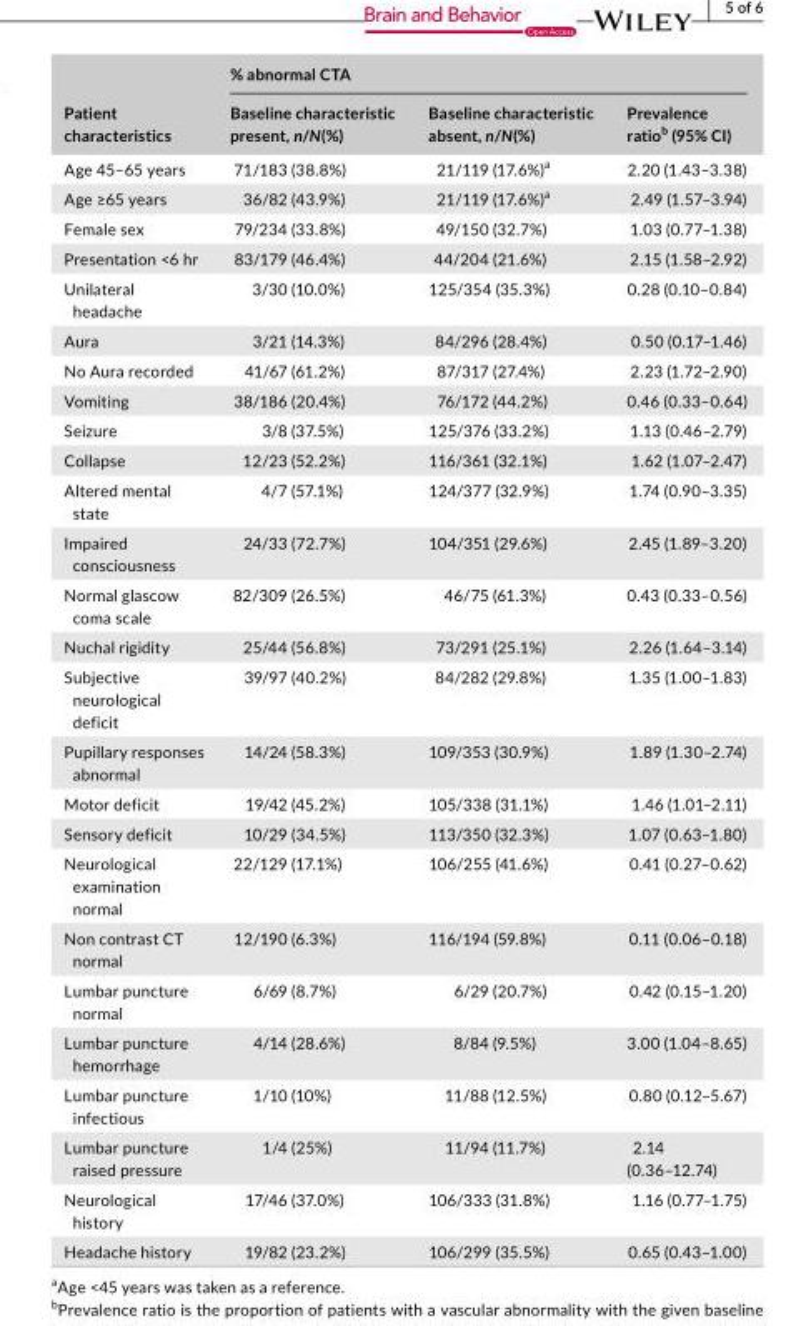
<table><thead><tr><td rowspan="2">Patient characteristics</td><td colspan="3">% abnormal CTA</td></tr><tr><td>Baseline characteristic present, n/N(%)</td><td>Baseline characteristic absent, n/N(%)</td><td>Prevalence ratio<sup>b</sup> (95% CI)</td></tr></thead><tbody><tr><td>Age 45–65 years</td><td>71/183 (38.8%)</td><td>21/119 (17.6%)<sup>a</sup></td><td>2.20 (1.43–3.38)</td></tr><tr><td>Age ≥65 years</td><td>36/82 (43.9%)</td><td>21/119 (17.6%)<sup>a</sup></td><td>2.49 (1.57–3.94)</td></tr><tr><td>Female sex</td><td>79/234 (33.8%)</td><td>49/150 (32.7%)</td><td>1.03 (0.77–1.38)</td></tr><tr><td>Presentation &lt;6 hr</td><td>83/179 (46.4%)</td><td>44/204 (21.6%)</td><td>2.15 (1.58–2.92)</td></tr><tr><td>Unilateral headache</td><td>3/30 (10.0%)</td><td>125/354 (35.3%)</td><td>0.28 (0.10–0.84)</td></tr><tr><td>Aura</td><td>3/21 (14.3%)</td><td>84/296 (28.4%)</td><td>0.50 (0.17–1.46)</td></tr><tr><td>No Aura recorded</td><td>41/67 (61.2%)</td><td>87/317 (27.4%)</td><td>2.23 (1.72–2.90)</td></tr><tr><td>Vomiting</td><td>38/186 (20.4%)</td><td>76/172 (44.2%)</td><td>0.46 (0.33–0.64)</td></tr><tr><td>Seizure</td><td>3/8 (37.5%)</td><td>125/376 (33.2%)</td><td>1.13 (0.46–2.79)</td></tr><tr><td>Collapse</td><td>12/23 (52.2%)</td><td>116/361 (32.1%)</td><td>1.62 (1.07–2.47)</td></tr><tr><td>Altered mental state</td><td>4/7 (57.1%)</td><td>124/377 (32.9%)</td><td>1.74 (0.90–3.35)</td></tr><tr><td>Impaired consciousness</td><td>24/33 (72.7%)</td><td>104/351 (29.6%)</td><td>2.45 (1.89–3.20)</td></tr><tr><td>Normal glascow coma scale</td><td>82/309 (26.5%)</td><td>46/75 (61.3%)</td><td>0.43 (0.33–0.56)</td></tr><tr><td>Nuchal rigidity</td><td>25/44 (56.8%)</td><td>73/291 (25.1%)</td><td>2.26 (1.64–3.14)</td></tr><tr><td>Subjective neurological deficit</td><td>39/97 (40.2%)</td><td>84/282 (29.8%)</td><td>1.35 (1.00–1.83)</td></tr><tr><td>Pupillary responses abnormal</td><td>14/24 (58.3%)</td><td>109/353 (30.9%)</td><td>1.89 (1.30–2.74)</td></tr><tr><td>Motor deficit</td><td>19/42 (45.2%)</td><td>105/338 (31.1%)</td><td>1.46 (1.01–2.11)</td></tr><tr><td>Sensory deficit</td><td>10/29 (34.5%)</td><td>113/350 (32.3%)</td><td>1.07 (0.63–1.80)</td></tr><tr><td>Neurological examination normal</td><td>22/129 (17.1%)</td><td>106/255 (41.6%)</td><td>0.41 (0.27–0.62)</td></tr><tr><td>Non contrast CT normal</td><td>12/190 (6.3%)</td><td>116/194 (59.8%)</td><td>0.11 (0.06–0.18)</td></tr><tr><td>Lumbar puncture normal</td><td>6/69 (8.7%)</td><td>6/29 (20.7%)</td><td>0.42 (0.15–1.20)</td></tr><tr><td>Lumbar puncture hemorrhage</td><td>4/14 (28.6%)</td><td>8/84 (9.5%)</td><td>3.00 (1.04–8.65)</td></tr><tr><td>Lumbar puncture infectious</td><td>1/10 (10%)</td><td>11/88 (12.5%)</td><td>0.80 (0.12–5.67)</td></tr><tr><td>Lumbar puncture raised pressure</td><td>1/4 (25%)</td><td>11/94 (11.7%)</td><td>2.14 (0.36–12.74)</td></tr><tr><td>Neurological history</td><td>17/46 (37.0%)</td><td>106/333 (31.8%)</td><td>1.16 (0.77–1.75)</td></tr><tr><td>Headache history</td><td>19/82 (23.2%)</td><td>106/299 (35.5%)</td><td>0.65 (0.43–1.00)</td></tr></tbody></table>